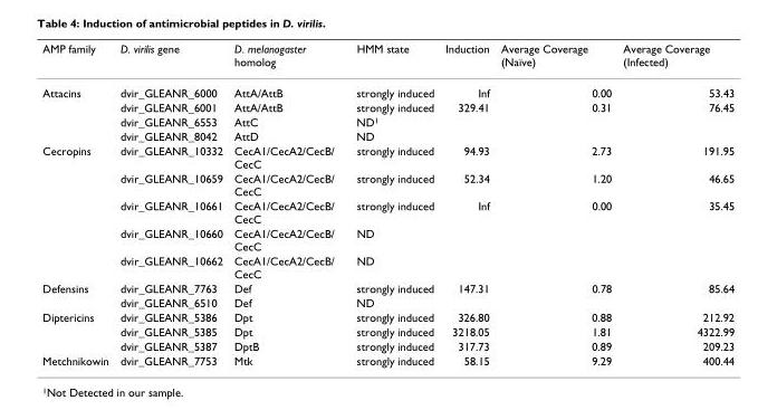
<table><thead><tr><td>AMP family</td><td>D. virilis gene</td><td>D. melanogaster homolog</td><td>HMM state</td><td>Induction</td><td>Average Coverage (Naïve)</td><td>Average Coverage (Infected)</td></tr></thead><tbody><tr><td rowspan="4">Attacins</td><td>dvir_GLEANR_6000</td><td>AttA/AttB</td><td>strongly induced</td><td>Inf</td><td>0.00</td><td>53.43</td></tr><tr><td>dvir_GLEANR_6001</td><td>AttA/AttB</td><td>strongly induced</td><td>329.41</td><td>0.31</td><td>76.45</td></tr><tr><td>dvir_GLEANR_6553</td><td>AttC</td><td>ND<sup>1</sup></td><td></td><td></td><td></td></tr><tr><td>dvir_GLEANR_8042</td><td>AttD</td><td>ND</td><td></td><td></td><td></td></tr><tr><td rowspan="5">Cecropins</td><td>dvir_GLEANR_10332</td><td>CecA1/CecA2/CecB/ CecC</td><td>strongly induced</td><td>94.93</td><td>2.73</td><td>191.95</td></tr><tr><td>dvir_GLEANR_10659</td><td>CecA1/CecA2/CecB/ CecC</td><td>strongly induced</td><td>52.34</td><td>1.20</td><td>46.65</td></tr><tr><td>dvir_GLEANR_10661</td><td>CecA1/CecA2/CecB/ CecC</td><td>strongly induced</td><td>Inf</td><td>0.00</td><td>35.45</td></tr><tr><td>dvir_GLEANR_10660</td><td>CecA1/CecA2/CecB/ CecC</td><td>ND</td><td></td><td></td><td></td></tr><tr><td>dvir_GLEANR_10662</td><td>CecA1/CecA2/CecB/ CecC</td><td>ND</td><td></td><td></td><td></td></tr><tr><td rowspan="2">Defensins</td><td>dvir_GLEANR_7763</td><td>Def</td><td>strongly induced</td><td>147.31</td><td>0.78</td><td>85.64</td></tr><tr><td>dvir_GLEANR_6510</td><td>Def</td><td>ND</td><td></td><td></td><td></td></tr><tr><td rowspan="3">Diptericins</td><td>dvir_GLEANR_5386</td><td>Dpt</td><td>strongly induced</td><td>326.80</td><td>0.88</td><td>212.92</td></tr><tr><td>dvir_GLEANR_5385</td><td>Dpt</td><td>strongly induced</td><td>3218.05</td><td>1.81</td><td>4322.99</td></tr><tr><td>dvir_GLEANR_5387</td><td>DptB</td><td>strongly induced</td><td>317.73</td><td>0.89</td><td>209.23</td></tr><tr><td>Metchnikowin</td><td>dvir_GLEANR_7753</td><td>Mtk</td><td>strongly induced</td><td>58.15</td><td>9.29</td><td>400.44</td></tr></tbody></table>